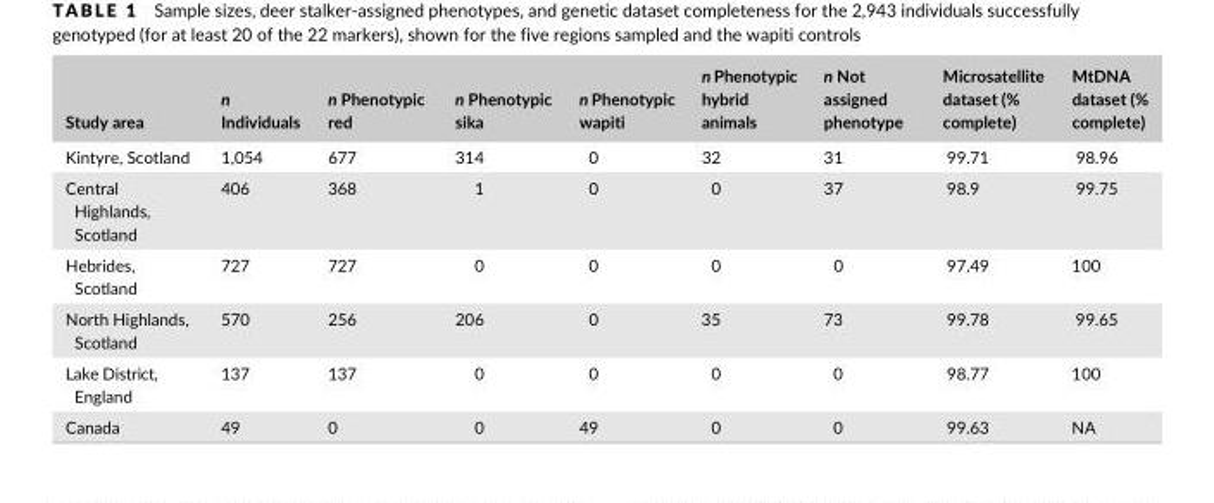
<table><thead><tr><td>Study area</td><td>n Individuals</td><td>n Phenotypic red</td><td>n Phenotypic sika</td><td>n Phenotypic wapiti</td><td>n Phenotypic hybrid animals</td><td>n Not assigned phenotype</td><td>Microsatellite dataset (% complete)</td><td>MtDNA dataset (% complete)</td></tr></thead><tbody><tr><td>Kintyre, Scotland</td><td>1,054</td><td>677</td><td>314</td><td>0</td><td>32</td><td>31</td><td>99.71</td><td>98.96</td></tr><tr><td>Central Highlands, Scotland</td><td>406</td><td>368</td><td>1</td><td>0</td><td>0</td><td>37</td><td>98.9</td><td>99.75</td></tr><tr><td>Hebrides, Scotland</td><td>727</td><td>727</td><td>0</td><td>0</td><td>0</td><td>0</td><td>97.49</td><td>100</td></tr><tr><td>North Highlands, Scotland</td><td>570</td><td>256</td><td>206</td><td>0</td><td>35</td><td>73</td><td>99.78</td><td>99.65</td></tr><tr><td>Lake District, England</td><td>137</td><td>137</td><td>0</td><td>0</td><td>0</td><td>0</td><td>98.77</td><td>100</td></tr><tr><td>Canada</td><td>49</td><td>0</td><td>0</td><td>49</td><td>0</td><td>0</td><td>99.63</td><td>NA</td></tr></tbody></table>